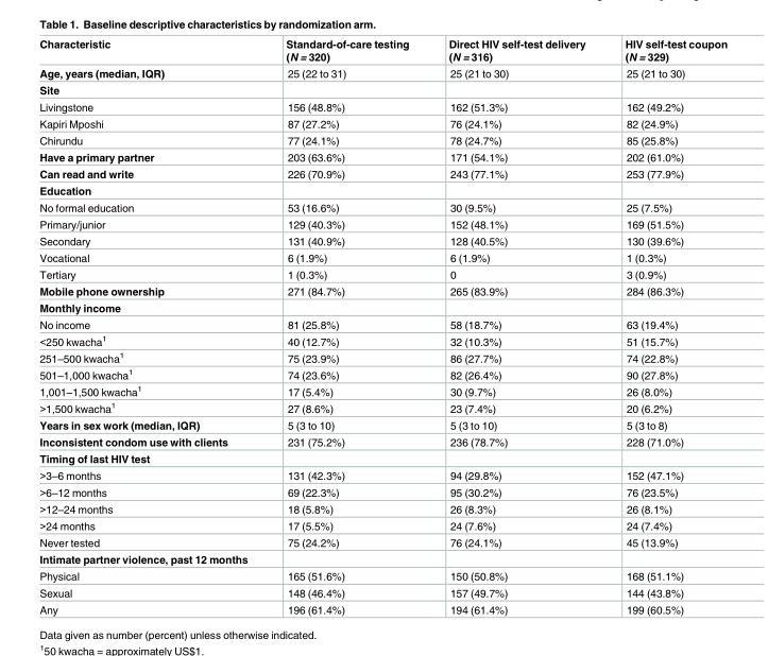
<table><thead><tr><td>Characteristic</td><td>Standard-of-care testing (N = 320)</td><td>Direct HIV self-test delivery (N = 316)</td><td>HIV self-test coupon (N = 329)</td></tr></thead><tbody><tr><td>Age, years (median, IQR)</td><td>25 (22 to 31)</td><td>25 (21 to 30)</td><td>25 (21 to 30)</td></tr><tr><td colspan="4">Site</td></tr><tr><td>Livingstone</td><td>156 (48.8%)</td><td>162 (51.3%)</td><td>162 (49.2%)</td></tr><tr><td>Kapiri Mposhi</td><td>87 (27.2%)</td><td>76 (24.1%)</td><td>82 (24.9%)</td></tr><tr><td>Chirundu</td><td>77 (24.1%)</td><td>78 (24.7%)</td><td>85 (25.8%)</td></tr><tr><td>Have a primary partner</td><td>203 (63.6%)</td><td>171 (54.1%)</td><td>202 (61.0%)</td></tr><tr><td>Can read and write</td><td>226 (70.9%)</td><td>243 (77.1%)</td><td>253 (77.9%)</td></tr><tr><td colspan="4">Education</td></tr><tr><td>No formal education</td><td>53 (16.6%)</td><td>30 (9.5%)</td><td>25 (7.5%)</td></tr><tr><td>Primary/junior</td><td>129 (40.3%)</td><td>152 (48.1%)</td><td>169 (51.5%)</td></tr><tr><td>Secondary</td><td>131 (40.9%)</td><td>128 (40.5%)</td><td>130 (39.6%)</td></tr><tr><td>Vocational</td><td>6 (1.9%)</td><td>6 (1.9%)</td><td>1 (0.3%)</td></tr><tr><td>Tertiary</td><td>1 (0.3%)</td><td>0</td><td>3 (0.9%)</td></tr><tr><td>Mobile phone ownership</td><td>271 (84.7%)</td><td>265 (83.9%)</td><td>284 (86.3%)</td></tr><tr><td colspan="4">Monthly income</td></tr><tr><td>No income</td><td>81 (25.8%)</td><td>58 (18.7%)</td><td>63 (19.4%)</td></tr><tr><td>&lt;250 kwacha<sup>1</sup></td><td>40 (12.7%)</td><td>32 (10.3%)</td><td>51 (15.7%)</td></tr><tr><td>251–500 kwacha<sup>1</sup></td><td>75 (23.9%)</td><td>86 (27.7%)</td><td>74 (22.8%)</td></tr><tr><td>501–1,000 kwacha<sup>1</sup></td><td>74 (23.6%)</td><td>82 (26.4%)</td><td>90 (27.8%)</td></tr><tr><td>1,001–1,500 kwacha<sup>1</sup></td><td>17 (5.4%)</td><td>30 (9.7%)</td><td>26 (8.0%)</td></tr><tr><td>&gt;1,500 kwacha<sup>1</sup></td><td>27 (8.6%)</td><td>23 (7.4%)</td><td>20 (6.2%)</td></tr><tr><td>Years in sex work (median, IQR)</td><td>5 (3 to 10)</td><td>5 (3 to 10)</td><td>5 (3 to 8)</td></tr><tr><td>Inconsistent condom use with clients</td><td>231 (75.2%)</td><td>236 (78.7%)</td><td>228 (71.0%)</td></tr><tr><td colspan="4">Timing of last HIV test</td></tr><tr><td>&gt;3–6 months</td><td>131 (42.3%)</td><td>94 (29.8%)</td><td>152 (47.1%)</td></tr><tr><td>&gt;6–12 months</td><td>69 (22.3%)</td><td>95 (30.2%)</td><td>76 (23.5%)</td></tr><tr><td>&gt;12–24 months</td><td>18 (5.8%)</td><td>26 (8.3%)</td><td>26 (8.1%)</td></tr><tr><td>&gt;24 months</td><td>17 (5.5%)</td><td>24 (7.6%)</td><td>24 (7.4%)</td></tr><tr><td>Never tested</td><td>75 (24.2%)</td><td>76 (24.1%)</td><td>45 (13.9%)</td></tr><tr><td colspan="4">Intimate partner violence, past 12 months</td></tr><tr><td>Physical</td><td>165 (51.6%)</td><td>150 (50.8%)</td><td>168 (51.1%)</td></tr><tr><td>Sexual</td><td>148 (46.4%)</td><td>157 (49.7%)</td><td>144 (43.8%)</td></tr><tr><td>Any</td><td>196 (61.4%)</td><td>194 (61.4%)</td><td>199 (60.5%)</td></tr></tbody></table>